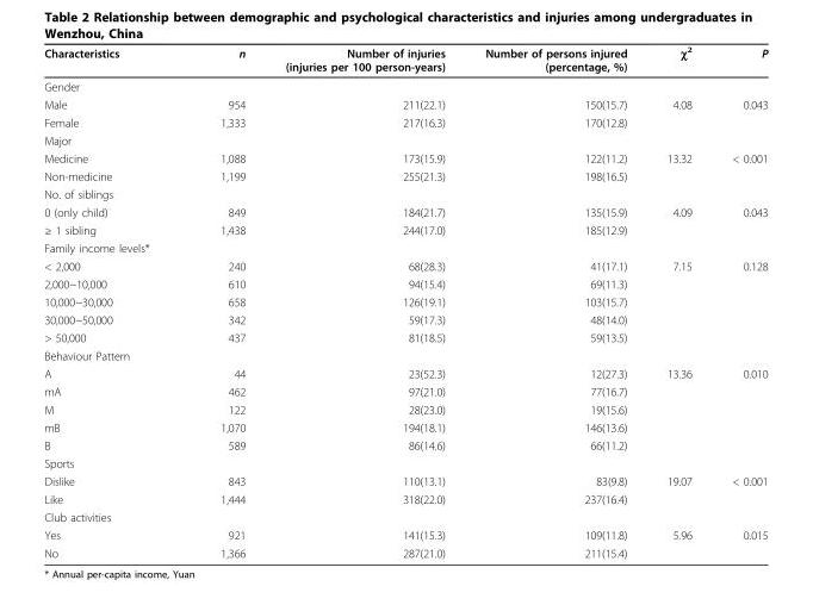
<table><thead><tr><td>Characteristics</td><td>n</td><td>Number of injuries (injuries per 100 person-years)</td><td>Number of persons injured (percentage, %)</td><td>χ<sup>2</sup></td><td>P</td></tr></thead><tbody><tr><td colspan="6">Gender</td></tr><tr><td>Male</td><td>954</td><td>211(22.1)</td><td>150(15.7)</td><td>4.08</td><td>0.043</td></tr><tr><td>Female</td><td>1,333</td><td>217(16.3)</td><td>170(12.8)</td><td></td><td></td></tr><tr><td colspan="6">Major</td></tr><tr><td>Medicine</td><td>1,088</td><td>173(15.9)</td><td>122(11.2)</td><td>13.32</td><td>&lt; 0.001</td></tr><tr><td>Non-medicine</td><td>1,199</td><td>255(21.3)</td><td>198(16.5)</td><td></td><td></td></tr><tr><td colspan="6">No. of siblings</td></tr><tr><td>0 (only child)</td><td>849</td><td>184(21.7)</td><td>135(15.9)</td><td>4.09</td><td>0.043</td></tr><tr><td>≥ 1 sibling</td><td>1,438</td><td>244(17.0)</td><td>185(12.9)</td><td></td><td></td></tr><tr><td colspan="6">Family income levels*</td></tr><tr><td>&lt; 2,000</td><td>240</td><td>68(28.3)</td><td>41(17.1)</td><td>7.15</td><td>0.128</td></tr><tr><td>2,000~10,000</td><td>610</td><td>94(15.4)</td><td>69(11.3)</td><td></td><td></td></tr><tr><td>10,000~30,000</td><td>658</td><td>126(19.1)</td><td>103(15.7)</td><td></td><td></td></tr><tr><td>30,000~50,000</td><td>342</td><td>59(17.3)</td><td>48(14.0)</td><td></td><td></td></tr><tr><td>&gt; 50,000</td><td>437</td><td>81(18.5)</td><td>59(13.5)</td><td></td><td></td></tr><tr><td colspan="6">Behaviour Pattern</td></tr><tr><td>A</td><td>44</td><td>23(52.3)</td><td>12(27.3)</td><td>13.36</td><td>0.010</td></tr><tr><td>mA</td><td>462</td><td>97(21.0)</td><td>77(16.7)</td><td></td><td></td></tr><tr><td>M</td><td>122</td><td>28(23.0)</td><td>19(15.6)</td><td></td><td></td></tr><tr><td>mB</td><td>1,070</td><td>194(18.1)</td><td>146(13.6)</td><td></td><td></td></tr><tr><td>B</td><td>589</td><td>86(14.6)</td><td>66(11.2)</td><td></td><td></td></tr><tr><td colspan="6">Sports</td></tr><tr><td>Dislike</td><td>843</td><td>110(13.1)</td><td>83(9.8)</td><td>19.07</td><td>&lt; 0.001</td></tr><tr><td>Like</td><td>1,444</td><td>318(22.0)</td><td>237(16.4)</td><td></td><td></td></tr><tr><td colspan="6">Club activities</td></tr><tr><td>Yes</td><td>921</td><td>141(15.3)</td><td>109(11.8)</td><td>5.96</td><td>0.015</td></tr><tr><td>No</td><td>1,366</td><td>287(21.0)</td><td>211(15.4)</td><td></td><td></td></tr></tbody></table>